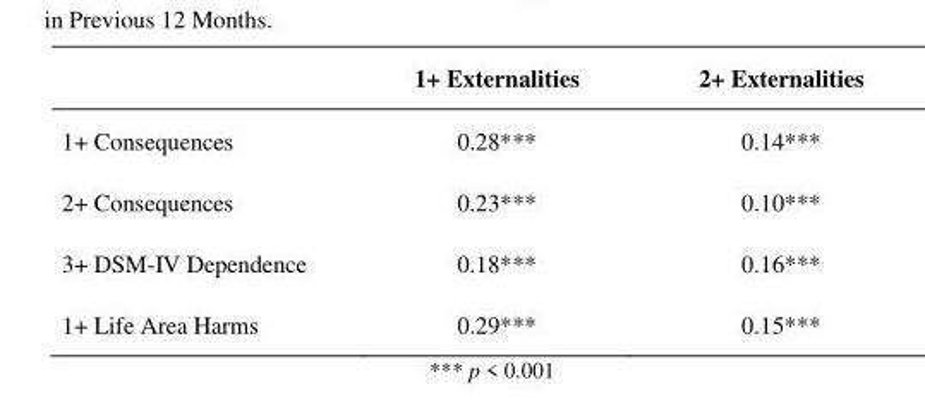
<table><thead><tr><td></td><td>1+ Externalities</td><td>2+ Externalities</td></tr></thead><tbody><tr><td>1+ Consequences</td><td>0.28***</td><td>0.14***</td></tr><tr><td>2+ Consequences</td><td>0.23***</td><td>0.10***</td></tr><tr><td>3+ DSM-IV Dependence</td><td>0.18***</td><td>0.16***</td></tr><tr><td>1+ Life Area Harms</td><td>0.29***</td><td>0.15***</td></tr></tbody></table>